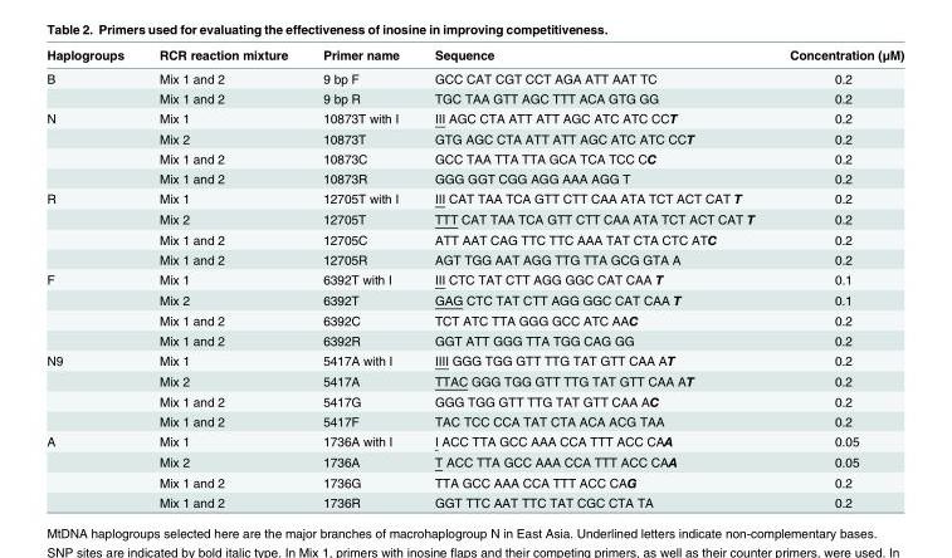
<table><thead><tr><td>Haplogroups</td><td>RCR reaction mixture</td><td>Primer name</td><td>Sequence</td><td>Concentration (μM)</td></tr></thead><tbody><tr><td rowspan="2">B</td><td>Mix 1 and 2</td><td>9 bp F</td><td>GCC CAT CGT CCT AGA ATT AAT TC</td><td>0.2</td></tr><tr><td>Mix 1 and 2</td><td>9 bp R</td><td>TGC TAA GTT AGC TTT ACA GTG GG</td><td>0.2</td></tr><tr><td rowspan="4">N</td><td>Mix 1</td><td>10873T with I</td><td>III AGC CTA ATT ATT AGC ATC ATC CCT</td><td>0.2</td></tr><tr><td>Mix 2</td><td>10873T</td><td>GTG AGC CTA ATT ATT AGC ATC ATC CCT</td><td>0.2</td></tr><tr><td>Mix 1 and 2</td><td>10873C</td><td>GCC TAA TTA TTA GCA TCA TCC CC</td><td>0.2</td></tr><tr><td>Mix 1 and 2</td><td>10873R</td><td>GGG GGT CGG AGG AAA AGG T</td><td>0.2</td></tr><tr><td rowspan="4">R</td><td>Mix 1</td><td>12705T with I</td><td>III CAT TAA TCA GTT CTT CAA ATA TCT ACT CAT T</td><td>0.2</td></tr><tr><td>Mix 2</td><td>12705T</td><td>TTT CAT TAA TCA GTT CTT CAA ATA TCT ACT CAT T</td><td>0.2</td></tr><tr><td>Mix 1 and 2</td><td>12705C</td><td>ATT AAT CAG TTC TTC AAA TAT CTA CTC ATC</td><td>0.2</td></tr><tr><td>Mix 1 and 2</td><td>12705R</td><td>AGT TGG AAT AGG TTG TTA GCG GTA A</td><td>0.2</td></tr><tr><td rowspan="4">F</td><td>Mix 1</td><td>6392T with I</td><td>III CTC TAT CTT AGG GGC CAT CAA T</td><td>0.1</td></tr><tr><td>Mix 2</td><td>6392T</td><td>GAG CTC TAT CTT AGG GGC CAT CAA T</td><td>0.1</td></tr><tr><td>Mix 1 and 2</td><td>6392C</td><td>TCT ATC TTA GGG GCC ATC AAC</td><td>0.2</td></tr><tr><td>Mix 1 and 2</td><td>6392R</td><td>GGT ATT GGG TTA TGG CAG GG</td><td>0.2</td></tr><tr><td rowspan="4">N9</td><td>Mix 1</td><td>5417A with I</td><td>IIII GGG TGG GTT TTG TAT GTT CAA AT</td><td>0.2</td></tr><tr><td>Mix 2</td><td>5417A</td><td>TTAC GGG TGG GTT TTG TAT GTT CAA AT</td><td>0.2</td></tr><tr><td>Mix 1 and 2</td><td>5417G</td><td>GGG TGG GTT TTG TAT GTT CAA AC</td><td>0.2</td></tr><tr><td>Mix 1 and 2</td><td>5417F</td><td>TAC TCC CCA TAT CTA ACA ACG TAA</td><td>0.2</td></tr><tr><td rowspan="4">A</td><td>Mix 1</td><td>1736A with I</td><td>I ACC TTA GCC AAA CCA TTT ACC CAA</td><td>0.05</td></tr><tr><td>Mix 2</td><td>1736A</td><td>T ACC TTA GCC AAA CCA TTT ACC CAA</td><td>0.05</td></tr><tr><td>Mix 1 and 2</td><td>1736G</td><td>TTA GCC AAA CCA TTT ACC CAG</td><td>0.2</td></tr><tr><td>Mix 1 and 2</td><td>1736R</td><td>GGT TTC AAT TTC TAT CGC CTA TA</td><td>0.2</td></tr></tbody></table>